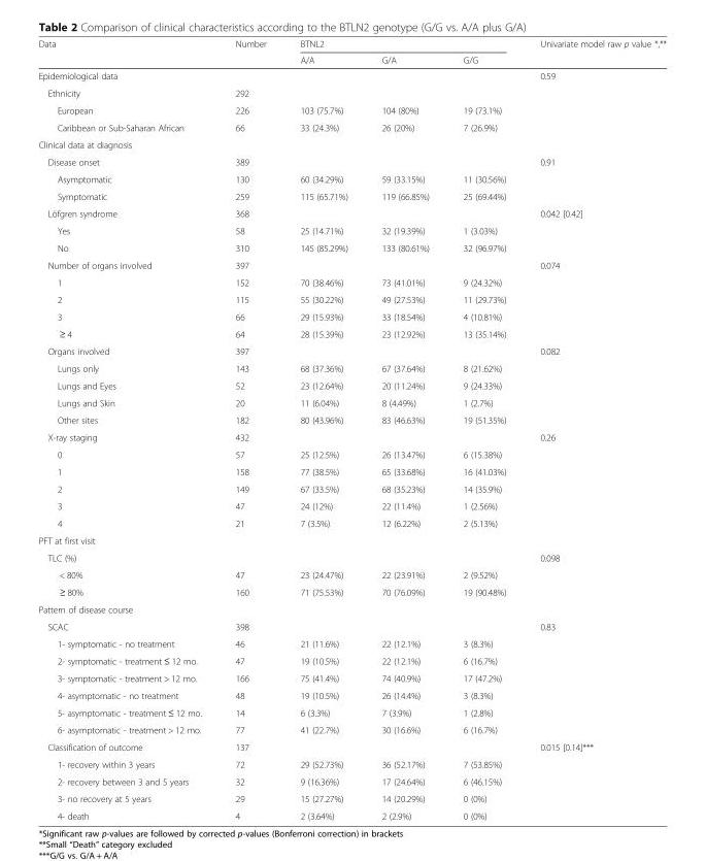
<table><thead><tr><td rowspan="2">Data</td><td rowspan="2">Number</td><td colspan="3">BTNL2</td><td rowspan="2">Univariate model raw p value *,**</td></tr><tr><td>A/A</td><td>G/A</td><td>G/G</td></tr></thead><tbody><tr><td>Epidemiological data</td><td></td><td></td><td></td><td></td><td>0.59</td></tr><tr><td>Ethnicity</td><td>292</td><td></td><td></td><td></td><td></td></tr><tr><td>European</td><td>226</td><td>103 (75.7%)</td><td>104 (80%)</td><td>19 (73.1%)</td><td></td></tr><tr><td>Caribbean or Sub-Saharan African</td><td>66</td><td>33 (24.3%)</td><td>26 (20%)</td><td>7 (26.9%)</td><td></td></tr><tr><td colspan="6">Clinical data at diagnosis</td></tr><tr><td>Disease onset</td><td>389</td><td></td><td></td><td></td><td>0.91</td></tr><tr><td>Asymptomatic</td><td>130</td><td>60 (34.29%)</td><td>59 (33.15%)</td><td>11 (30.56%)</td><td></td></tr><tr><td>Symptomatic</td><td>259</td><td>115 (65.71%)</td><td>119 (66.85%)</td><td>25 (69.44%)</td><td></td></tr><tr><td>Löfgren syndrome</td><td>368</td><td></td><td></td><td></td><td>0.042 [0.42]</td></tr><tr><td>Yes</td><td>58</td><td>25 (14.71%)</td><td>32 (19.39%)</td><td>1 (3.03%)</td><td></td></tr><tr><td>No</td><td>310</td><td>145 (85.29%)</td><td>133 (80.61%)</td><td>32 (96.97%)</td><td></td></tr><tr><td>Number of organs involved</td><td>397</td><td></td><td></td><td></td><td>0.074</td></tr><tr><td>1</td><td>152</td><td>70 (38.46%)</td><td>73 (41.01%)</td><td>9 (24.32%)</td><td></td></tr><tr><td>2</td><td>115</td><td>55 (30.22%)</td><td>49 (27.53%)</td><td>11 (29.73%)</td><td></td></tr><tr><td>3</td><td>66</td><td>29 (15.93%)</td><td>33 (18.54%)</td><td>4 (10.81%)</td><td></td></tr><tr><td>≥ 4</td><td>64</td><td>28 (15.39%)</td><td>23 (12.92%)</td><td>13 (35.14%)</td><td></td></tr><tr><td>Organs involved</td><td>397</td><td></td><td></td><td></td><td>0.082</td></tr><tr><td>Lungs only</td><td>143</td><td>68 (37.36%)</td><td>67 (37.64%)</td><td>8 (21.62%)</td><td></td></tr><tr><td>Lungs and Eyes</td><td>52</td><td>23 (12.64%)</td><td>20 (11.24%)</td><td>9 (24.33%)</td><td></td></tr><tr><td>Lungs and Skin</td><td>20</td><td>11 (6.04%)</td><td>8 (4.49%)</td><td>1 (2.7%)</td><td></td></tr><tr><td>Other sites</td><td>182</td><td>80 (43.96%)</td><td>83 (46.63%)</td><td>19 (51.35%)</td><td></td></tr><tr><td>X-ray staging</td><td>432</td><td></td><td></td><td></td><td>0.26</td></tr><tr><td>0</td><td>57</td><td>25 (12.5%)</td><td>26 (13.47%)</td><td>6 (15.38%)</td><td></td></tr><tr><td>1</td><td>158</td><td>77 (38.5%)</td><td>65 (33.68%)</td><td>16 (41.03%)</td><td></td></tr><tr><td>2</td><td>149</td><td>67 (33.5%)</td><td>68 (35.23%)</td><td>14 (35.9%)</td><td></td></tr><tr><td>3</td><td>47</td><td>24 (12%)</td><td>22 (11.4%)</td><td>1 (2.56%)</td><td></td></tr><tr><td>4</td><td>21</td><td>7 (3.5%)</td><td>12 (6.22%)</td><td>2 (5.13%)</td><td></td></tr><tr><td colspan="6">PFT at first visit</td></tr><tr><td>TLC (%)</td><td></td><td></td><td></td><td></td><td>0.098</td></tr><tr><td>&lt; 80%</td><td>47</td><td>23 (24.47%)</td><td>22 (23.91%)</td><td>2 (9.52%)</td><td></td></tr><tr><td>≥ 80%</td><td>160</td><td>71 (75.53%)</td><td>70 (76.09%)</td><td>19 (90.48%)</td><td></td></tr><tr><td colspan="6">Pattern of disease course</td></tr><tr><td>SCAC</td><td>398</td><td></td><td></td><td></td><td>0.83</td></tr><tr><td>1- symptomatic - no treatment</td><td>46</td><td>21 (11.6%)</td><td>22 (12.1%)</td><td>3 (8.3%)</td><td></td></tr><tr><td>2- symptomatic - treatment ≤ 12 mo.</td><td>47</td><td>19 (10.5%)</td><td>22 (12.1%)</td><td>6 (16.7%)</td><td></td></tr><tr><td>3- symptomatic - treatment &gt; 12 mo.</td><td>166</td><td>75 (41.4%)</td><td>74 (40.9%)</td><td>17 (47.2%)</td><td></td></tr><tr><td>4- asymptomatic - no treatment</td><td>48</td><td>19 (10.5%)</td><td>26 (14.4%)</td><td>3 (8.3%)</td><td></td></tr><tr><td>5- asymptomatic - treatment ≤ 12 mo.</td><td>14</td><td>6 (3.3%)</td><td>7 (3.9%)</td><td>1 (2.8%)</td><td></td></tr><tr><td>6- asymptomatic - treatment &gt; 12 mo.</td><td>77</td><td>41 (22.7%)</td><td>30 (16.6%)</td><td>6 (16.7%)</td><td></td></tr><tr><td>Classification of outcome</td><td>137</td><td></td><td></td><td></td><td>0.015 [0.14]***</td></tr><tr><td>1- recovery within 3 years</td><td>72</td><td>29 (52.73%)</td><td>36 (52.17%)</td><td>7 (53.85%)</td><td></td></tr><tr><td>2- recovery between 3 and 5 years</td><td>32</td><td>9 (16.36%)</td><td>17 (24.64%)</td><td>6 (46.15%)</td><td></td></tr><tr><td>3- no recovery at 5 years</td><td>29</td><td>15 (27.27%)</td><td>14 (20.29%)</td><td>0 (0%)</td><td></td></tr><tr><td>4- death</td><td>4</td><td>2 (3.64%)</td><td>2 (2.9%)</td><td>0 (0%)</td><td></td></tr></tbody></table>